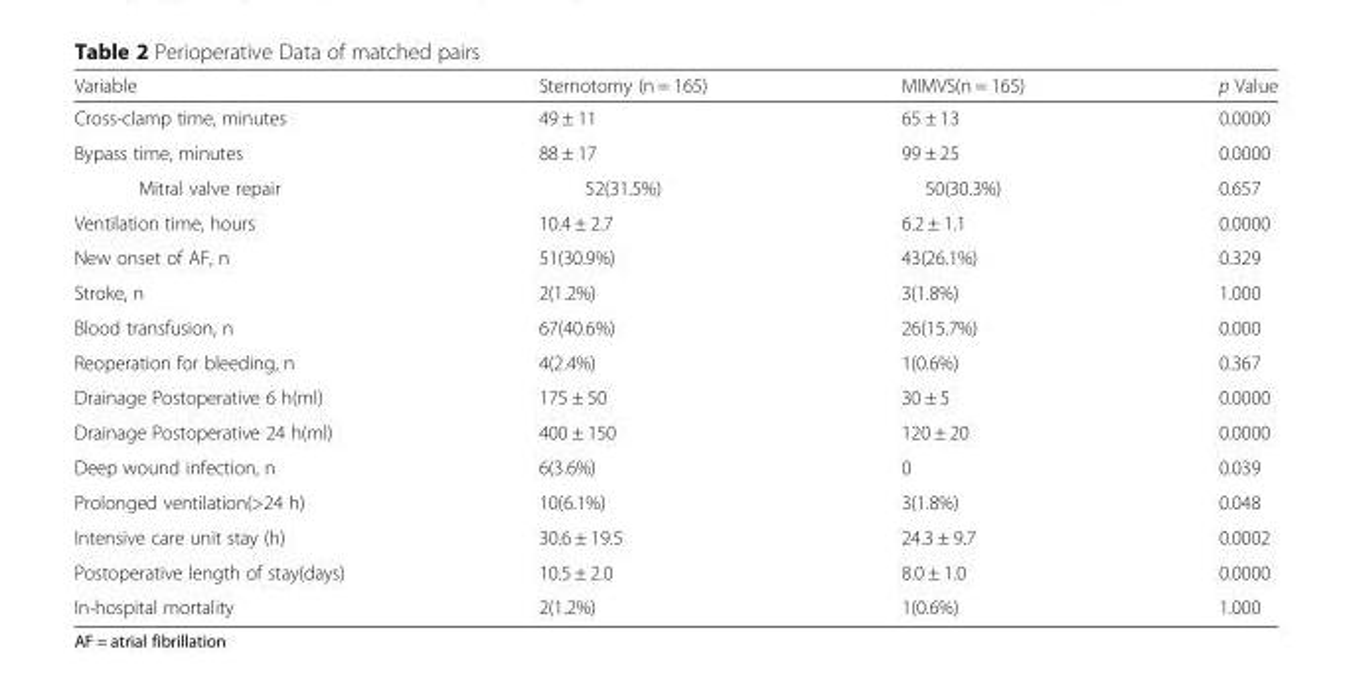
<table><thead><tr><td>Variable</td><td>Sternotomy (n = 165)</td><td>MIMVS(n = 165)</td><td>p Value</td></tr></thead><tbody><tr><td>Cross-clamp time, minutes</td><td>49 ± 11</td><td>65 ± 13</td><td>0.0000</td></tr><tr><td>Bypass time, minutes</td><td>88 ± 17</td><td>99 ± 25</td><td>0.0000</td></tr><tr><td>Mitral valve repair</td><td>52(31.5%)</td><td>50(30.3%)</td><td>0.657</td></tr><tr><td>Ventilation time, hours</td><td>10.4 ± 2.7</td><td>6.2 ± 1.1</td><td>0.0000</td></tr><tr><td>New onset of AF, n</td><td>51(30.9%)</td><td>43(26.1%)</td><td>0.329</td></tr><tr><td>Stroke, n</td><td>2(1.2%)</td><td>3(1.8%)</td><td>1.000</td></tr><tr><td>Blood transfusion, n</td><td>67(40.6%)</td><td>26(15.7%)</td><td>0.000</td></tr><tr><td>Reoperation for bleeding, n</td><td>4(2.4%)</td><td>1(0.6%)</td><td>0.367</td></tr><tr><td>Drainage Postoperative 6 h(ml)</td><td>175 ± 50</td><td>30 ± 5</td><td>0.0000</td></tr><tr><td>Drainage Postoperative 24 h(ml)</td><td>400 ± 150</td><td>120 ± 20</td><td>0.0000</td></tr><tr><td>Deep wound infection, n</td><td>6(3.6%)</td><td>0</td><td>0.039</td></tr><tr><td>Prolonged ventilation(&gt;24 h)</td><td>10(6.1%)</td><td>3(1.8%)</td><td>0.048</td></tr><tr><td>Intensive care unit stay (h)</td><td>30.6 ± 19.5</td><td>24.3 ± 9.7</td><td>0.0002</td></tr><tr><td>Postoperative length of stay(days)</td><td>10.5 ± 2.0</td><td>8.0 ± 1.0</td><td>0.0000</td></tr><tr><td>In-hospital mortality</td><td>2(1.2%)</td><td>1(0.6%)</td><td>1.000</td></tr></tbody></table>